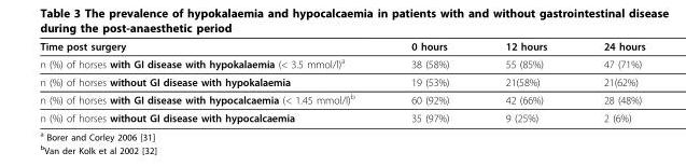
<table><thead><tr><td>Time post surgery</td><td>0 hours</td><td>12 hours</td><td>24 hours</td></tr></thead><tbody><tr><td>n (%) of horses with GI disease with hypokalaemia (&lt; 3.5 mmol/l)<sup>a</sup></td><td>38 (58%)</td><td>55 (85%)</td><td>47 (71%)</td></tr><tr><td>n (%) of horses without GI disease with hypokalaemia</td><td>19 (53%)</td><td>21(58%)</td><td>21(62%)</td></tr><tr><td>n (%) of horses with GI disease with hypocalcaemia (&lt; 1.45 mmol/l)<sup>b</sup></td><td>60 (92%)</td><td>42 (66%)</td><td>28 (48%)</td></tr><tr><td>n (%) of horses without GI disease with hypocalcaemia</td><td>35 (97%)</td><td>9 (25%)</td><td>2 (6%)</td></tr></tbody></table>